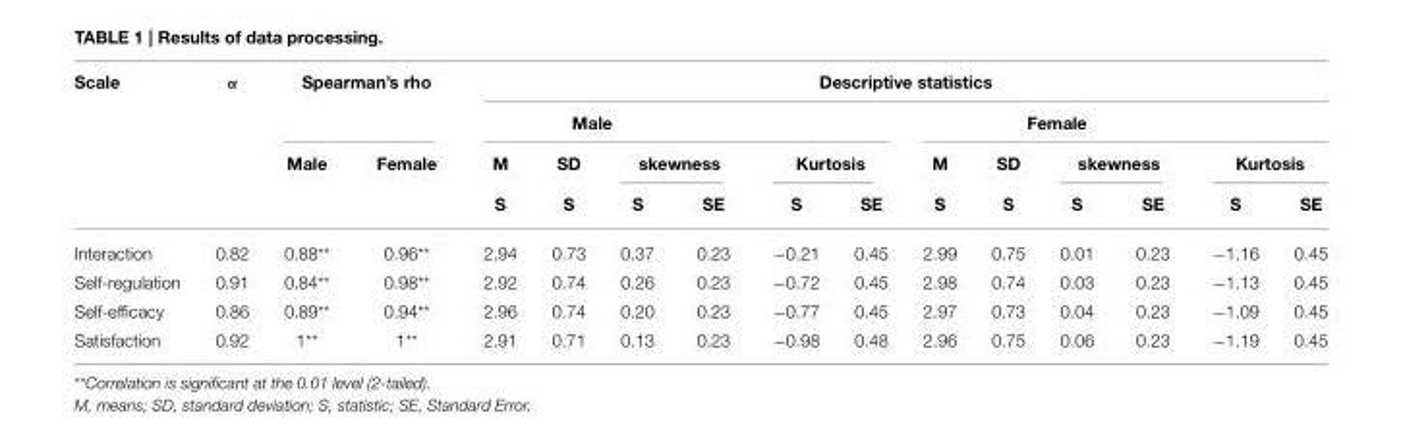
<table><thead><tr><td rowspan="4">Scale</td><td rowspan="4">α</td><td colspan="2">Spearman’s rho</td><td colspan="12">Descriptive statistics</td></tr><tr><td rowspan="3">Male</td><td rowspan="3">Female</td><td colspan="6">Male</td><td colspan="6">Female</td></tr><tr><td rowspan="2">M S</td><td rowspan="2">SD S</td><td colspan="2">skewness</td><td colspan="2">Kurtosis</td><td rowspan="2">M S</td><td rowspan="2">SD S</td><td colspan="2">skewness</td><td colspan="2">Kurtosis</td></tr><tr><td>S</td><td>SE</td><td>S</td><td>SE</td><td>S</td><td>SE</td><td>S</td><td>SE</td></tr></thead><tbody><tr><td>Interaction</td><td>0.82</td><td>0.88**</td><td>0.96**</td><td>2.94</td><td>0.73</td><td>0.37</td><td>0.23</td><td>−0.21</td><td>0.45</td><td>2.99</td><td>0.75</td><td>0.01</td><td>0.23</td><td>−1.16</td><td>0.45</td></tr><tr><td>Self-regulation</td><td>0.91</td><td>0.84**</td><td>0.98**</td><td>2.92</td><td>0.74</td><td>0.26</td><td>0.23</td><td>−0.72</td><td>0.45</td><td>2.98</td><td>0.74</td><td>0.03</td><td>0.23</td><td>−1.13</td><td>0.45</td></tr><tr><td>Self-efficacy</td><td>0.86</td><td>0.89**</td><td>0.94**</td><td>2.96</td><td>0.74</td><td>0.20</td><td>0.23</td><td>−0.77</td><td>0.45</td><td>2.97</td><td>0.73</td><td>0.04</td><td>0.23</td><td>−1.09</td><td>0.45</td></tr><tr><td>Satisfaction</td><td>0.92</td><td>1**</td><td>1**</td><td>2.91</td><td>0.71</td><td>0.13</td><td>0.23</td><td>−0.98</td><td>0.48</td><td>2.96</td><td>0.75</td><td>0.06</td><td>0.23</td><td>−1.19</td><td>0.45</td></tr></tbody></table>